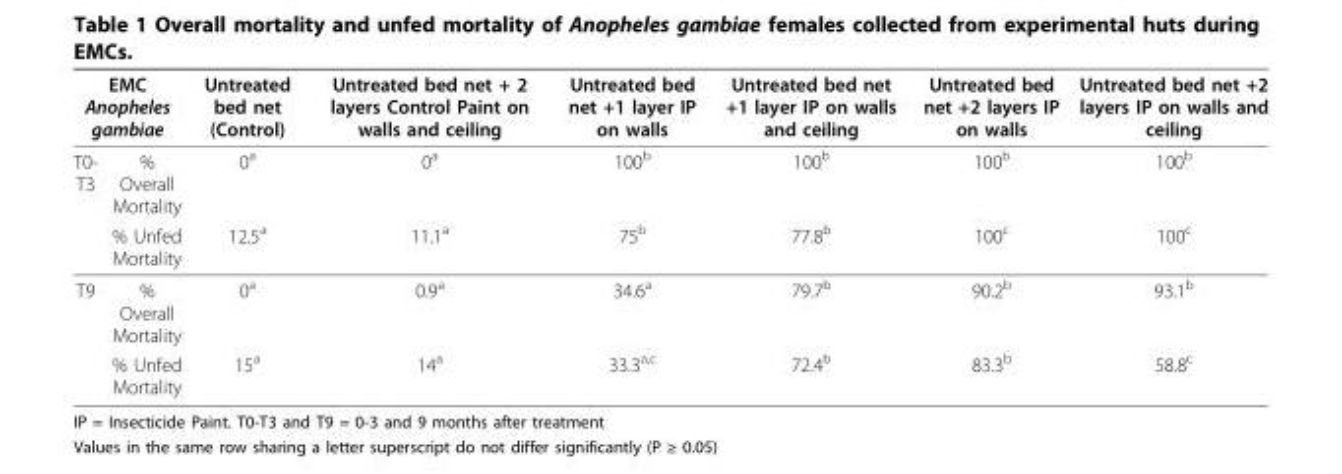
<table><thead><tr><td colspan="2">EMC Anopheles gambiae</td><td rowspan="2">Untreated bed net (Control) 0a</td><td rowspan="2">Untreated bed net + 2 layers Control Paint on walls and ceiling 0a</td><td rowspan="2">Untreated bed net +1 layer IP on walls 100b</td><td rowspan="2">Untreated bed net +1 layer IP on walls and ceiling 100b</td><td rowspan="2">Untreated bed net +2 layers IP on walls 100b</td><td rowspan="2">Untreated bed net +2 layers IP on walls and ceiling 100b</td></tr><tr><td>T0- T3</td><td>% Overall Mortality</td></tr></thead><tbody><tr><td></td><td>% Unfed Mortality</td><td>12.5a</td><td>11.1a</td><td>75b</td><td>77.8b</td><td>100c</td><td>100c</td></tr><tr><td rowspan="2">T9</td><td>% Overall Mortality</td><td>0a</td><td>0.9a</td><td>34.6a</td><td>79.7b</td><td>90.2b</td><td>93.1b</td></tr><tr><td>% Unfed Mortality</td><td>15a</td><td>14a</td><td>33.3a,c</td><td>72.4b</td><td>83.3b</td><td>58.8c</td></tr></tbody></table>